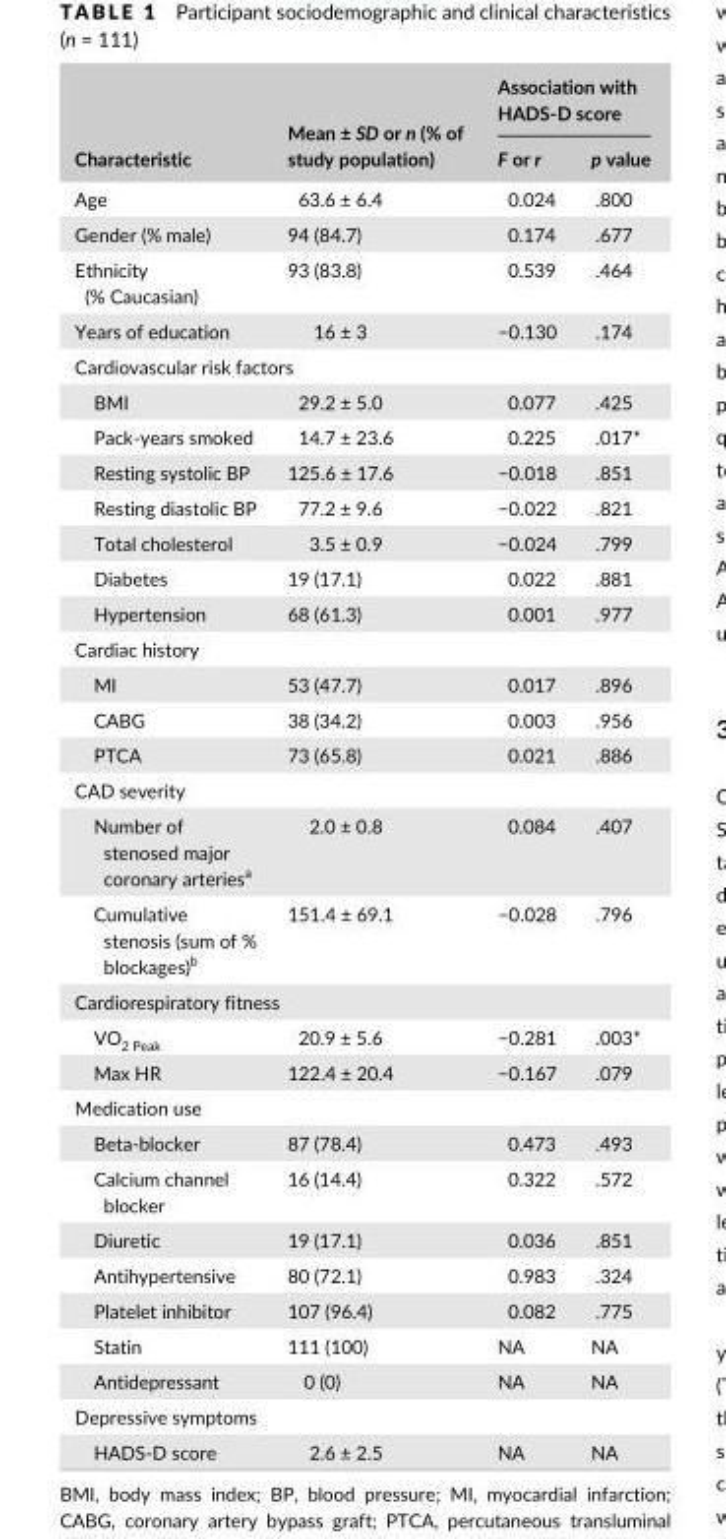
<table><thead><tr><td rowspan="2">Characteristic</td><td rowspan="2">Mean ± SD or n (% of study population)</td><td colspan="2">Association with HADS- D score</td></tr><tr><td>F or r</td><td>p value</td></tr></thead><tbody><tr><td>Age</td><td>63.6 ± 6.4</td><td>0.024</td><td>.800</td></tr><tr><td>Gender (% male)</td><td>94 (84.7)</td><td>0.174</td><td>.677</td></tr><tr><td>Ethnicity (% Caucasian)</td><td>93 (83.8)</td><td>0.539</td><td>.464</td></tr><tr><td>Years of education</td><td>16 ± 3</td><td>−0.130</td><td>.174</td></tr><tr><td colspan="4">Cardiovascular risk factors</td></tr><tr><td>BMI</td><td>29.2 ± 5.0</td><td>0.077</td><td>.425</td></tr><tr><td>Pack- years smoked</td><td>14.7 ± 23.6</td><td>0.225</td><td>.017*</td></tr><tr><td>Resting systolic BP</td><td>125.6 ± 17.6</td><td>−0.018</td><td>.851</td></tr><tr><td>Resting diastolic BP</td><td>77.2 ± 9.6</td><td>−0.022</td><td>.821</td></tr><tr><td>Total cholesterol</td><td>3.5 ± 0.9</td><td>−0.024</td><td>.799</td></tr><tr><td>Diabetes</td><td>19 (17.1)</td><td>0.022</td><td>.881</td></tr><tr><td>Hypertension</td><td>68 (61.3)</td><td>0.001</td><td>.977</td></tr><tr><td colspan="4">Cardiac history</td></tr><tr><td>MI</td><td>53 (47.7)</td><td>0.017</td><td>.896</td></tr><tr><td>CABG</td><td>38 (34.2)</td><td>0.003</td><td>.956</td></tr><tr><td>PTCA</td><td>73 (65.8)</td><td>0.021</td><td>.886</td></tr><tr><td colspan="4">CAD severity</td></tr><tr><td>Number of stenosed major coronary arteries<sup>a</sup></td><td>2.0 ± 0.8</td><td>0.084</td><td>.407</td></tr><tr><td>Cumulative stenosis (sum of % blockages)<sup>b</sup></td><td>151.4 ± 69.1</td><td>−0.028</td><td>.796</td></tr><tr><td colspan="4">Cardiorespiratory fitness</td></tr><tr><td>VO<sub>2 Peak</sub></td><td>20.9 ± 5.6</td><td>−0.281</td><td>.003*</td></tr><tr><td>Max HR</td><td>122.4 ± 20.4</td><td>−0.167</td><td>.079</td></tr><tr><td colspan="4">Medication use</td></tr><tr><td>Beta- blocker</td><td>87 (78.4)</td><td>0.473</td><td>.493</td></tr><tr><td>Calcium channel blocker</td><td>16 (14.4)</td><td>0.322</td><td>.572</td></tr><tr><td>Diuretic</td><td>19 (17.1)</td><td>0.036</td><td>.851</td></tr><tr><td>Antihypertensive</td><td>80 (72.1)</td><td>0.983</td><td>.324</td></tr><tr><td>Platelet inhibitor</td><td>107 (96.4)</td><td>0.082</td><td>.775</td></tr><tr><td>Statin</td><td>111 (100)</td><td>NA</td><td>NA</td></tr><tr><td>Antidepressant</td><td>0 (0)</td><td>NA</td><td>NA</td></tr><tr><td colspan="4">Depressive symptoms</td></tr><tr><td>HADS- D score</td><td>2.6 ± 2.5</td><td>NA</td><td>NA</td></tr></tbody></table>